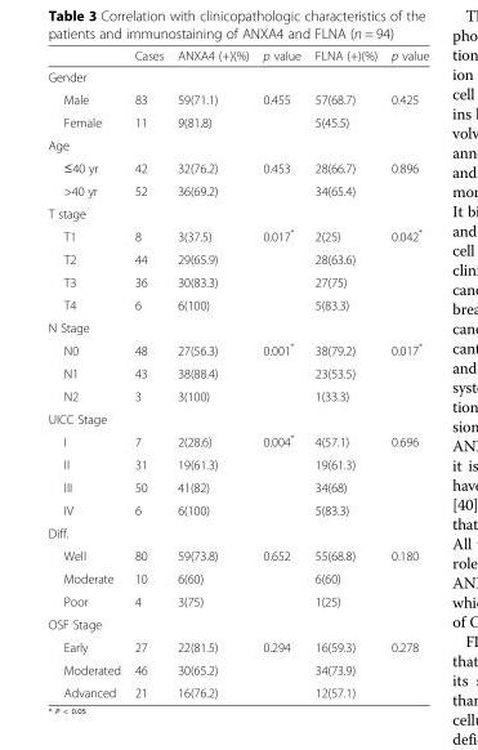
<table><thead><tr><td></td><td>Cases</td><td>ANXA4 (+)(%)</td><td>p value</td><td>FLNA (+)(%)</td><td>p value</td></tr></thead><tbody><tr><td colspan="6">Gender</td></tr><tr><td>Male</td><td>83</td><td>59(71.1)</td><td>0.455</td><td>57(68.7)</td><td>0.425</td></tr><tr><td>Female</td><td>11</td><td>9(81.8)</td><td></td><td>5(45.5)</td><td></td></tr><tr><td colspan="6">Age</td></tr><tr><td>≤40 yr</td><td>42</td><td>32(76.2)</td><td>0.453</td><td>28(66.7)</td><td>0.896</td></tr><tr><td>&gt;40 yr</td><td>52</td><td>36(69.2)</td><td></td><td>34(65.4)</td><td></td></tr><tr><td colspan="6">T stage</td></tr><tr><td>T1</td><td>8</td><td>3(37.5)</td><td>0.017*</td><td>2(25)</td><td>0.042*</td></tr><tr><td>T2</td><td>44</td><td>29(65.9)</td><td></td><td>28(63.6)</td><td></td></tr><tr><td>T3</td><td>36</td><td>30(83.3)</td><td></td><td>27(75)</td><td></td></tr><tr><td>T4</td><td>6</td><td>6(100)</td><td></td><td>5(83.3)</td><td></td></tr><tr><td colspan="6">N Stage</td></tr><tr><td>N0</td><td>48</td><td>27(56.3)</td><td>0.001*</td><td>38(79.2)</td><td>0.017*</td></tr><tr><td>N1</td><td>43</td><td>38(88.4)</td><td></td><td>23(53.5)</td><td></td></tr><tr><td>N2</td><td>3</td><td>3(100)</td><td></td><td>1(33.3)</td><td></td></tr><tr><td colspan="6">UICC Stage</td></tr><tr><td>I</td><td>7</td><td>2(28.6)</td><td>0.004*</td><td>4(57.1)</td><td>0.696</td></tr><tr><td>II</td><td>31</td><td>19(61.3)</td><td></td><td>19(61.3)</td><td></td></tr><tr><td>III</td><td>50</td><td>41(82)</td><td></td><td>34(68)</td><td></td></tr><tr><td>IV</td><td>6</td><td>6(100)</td><td></td><td>5(83.3)</td><td></td></tr><tr><td colspan="6">Diff.</td></tr><tr><td>Well</td><td>80</td><td>59(73.8)</td><td>0.652</td><td>55(68.8)</td><td>0.180</td></tr><tr><td>Moderate</td><td>10</td><td>6(60)</td><td></td><td>6(60)</td><td></td></tr><tr><td>Poor</td><td>4</td><td>3(75)</td><td></td><td>1(25)</td><td></td></tr><tr><td colspan="6">OSF Stage</td></tr><tr><td>Early</td><td>27</td><td>22(81.5)</td><td>0.294</td><td>16(59.3)</td><td>0.278</td></tr><tr><td>Moderated</td><td>46</td><td>30(65.2)</td><td></td><td>34(73.9)</td><td></td></tr><tr><td>Advanced</td><td>21</td><td>16(76.2)</td><td></td><td>12(57.1)</td><td></td></tr></tbody></table>